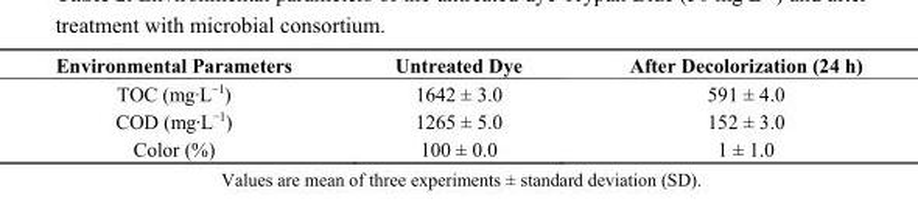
<table><thead><tr><td>Environmental Parameters</td><td>Untreated Dye</td><td>After Decolorization (24 h)</td></tr></thead><tbody><tr><td>TOC (mg·L−1)</td><td>1642 ± 3.0</td><td>591 ± 4.0</td></tr><tr><td>COD (mg·L−1)</td><td>1265 ± 5.0</td><td>152 ± 3.0</td></tr><tr><td>Color (%)</td><td>100 ± 0.0</td><td>1 ± 1.0</td></tr></tbody></table>